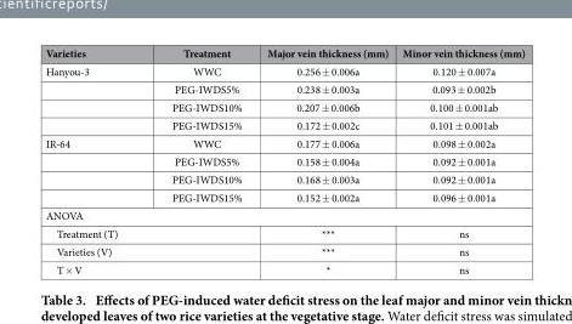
<table><thead><tr><td>Varieties</td><td>Treatment</td><td>Major vein thickness (mm)</td><td>Minor vein thickness (mm)</td></tr></thead><tbody><tr><td rowspan="4">Hanyou-3</td><td>WWC</td><td>0.256 ± 0.006a</td><td>0.120 ± 0.007a</td></tr><tr><td>PEG-IWDS5%</td><td>0.238 ± 0.003a</td><td>0.093 ± 0.002b</td></tr><tr><td>PEG-IWDS10%</td><td>0.207 ± 0.006b</td><td>0.100 ± 0.001ab</td></tr><tr><td>PEG-IWDS15%</td><td>0.172 ± 0.002c</td><td>0.101 ± 0.001ab</td></tr><tr><td rowspan="4">IR-64</td><td>WWC</td><td>0.177 ± 0.006a</td><td>0.098 ± 0.002a</td></tr><tr><td>PEG-IWDS5%</td><td>0.158 ± 0.004a</td><td>0.092 ± 0.001a</td></tr><tr><td>PEG-IWDS10%</td><td>0.168 ± 0.003a</td><td>0.092 ± 0.001a</td></tr><tr><td>PEG-IWDS15%</td><td>0.152 ± 0.002a</td><td>0.096 ± 0.001a</td></tr><tr><td colspan="4">ANOVA</td></tr><tr><td colspan="2">Treatment (T)</td><td>***</td><td>ns</td></tr><tr><td colspan="2">Varieties (V)</td><td>***</td><td>ns</td></tr><tr><td colspan="2">T × V</td><td>*</td><td>ns</td></tr></tbody></table>